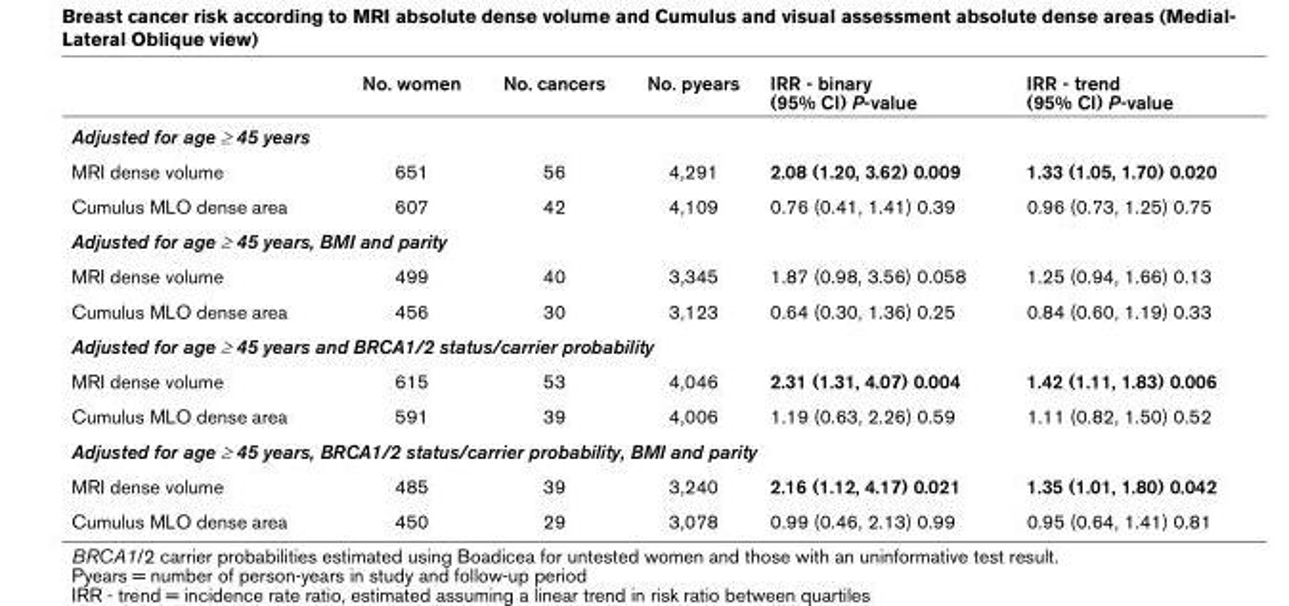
<table><thead><tr><td></td><td>No. women</td><td>No. cancers</td><td>No. pyears</td><td>IRR - binary (95% CI) P-value</td><td>IRR - trend (95% CI) P-value</td></tr></thead><tbody><tr><td colspan="6">Adjusted for age ≥ 45 years</td></tr><tr><td>MRI dense volume</td><td>651</td><td>56</td><td>4,291</td><td>2.08 (1.20, 3.62) 0.009</td><td>1.33 (1.05, 1.70) 0.020</td></tr><tr><td>Cumulus MLO dense area</td><td>607</td><td>42</td><td>4,109</td><td>0.76 (0.41, 1.41) 0.39</td><td>0.96 (0.73, 1.25) 0.75</td></tr><tr><td colspan="6">Adjusted for age ≥ 45 years, BMI and parity</td></tr><tr><td>MRI dense volume</td><td>499</td><td>40</td><td>3,345</td><td>1.87 (0.98, 3.56) 0.058</td><td>1.25 (0.94, 1.66) 0.13</td></tr><tr><td>Cumulus MLO dense area</td><td>456</td><td>30</td><td>3,123</td><td>0.64 (0.30, 1.36) 0.25</td><td>0.84 (0.60, 1.19) 0.33</td></tr><tr><td colspan="6">Adjusted for age ≥ 45 years and BRCA1/2 status/carrier probability</td></tr><tr><td>MRI dense volume</td><td>615</td><td>53</td><td>4,046</td><td>2.31 (1.31, 4.07) 0.004</td><td>1.42 (1.11, 1.83) 0.006</td></tr><tr><td>Cumulus MLO dense area</td><td>591</td><td>39</td><td>4,006</td><td>1.19 (0.63, 2.26) 0.59</td><td>1.11 (0.82, 1.50) 0.52</td></tr><tr><td colspan="6">Adjusted for age ≥ 45 years, BRCA1/2 status/carrier probability, BMI and parity</td></tr><tr><td>MRI dense volume</td><td>485</td><td>39</td><td>3,240</td><td>2.16 (1.12, 4.17) 0.021</td><td>1.35 (1.01, 1.80) 0.042</td></tr><tr><td>Cumulus MLO dense area</td><td>450</td><td>29</td><td>3,078</td><td>0.99 (0.46, 2.13) 0.99</td><td>0.95 (0.64, 1.41) 0.81</td></tr></tbody></table>